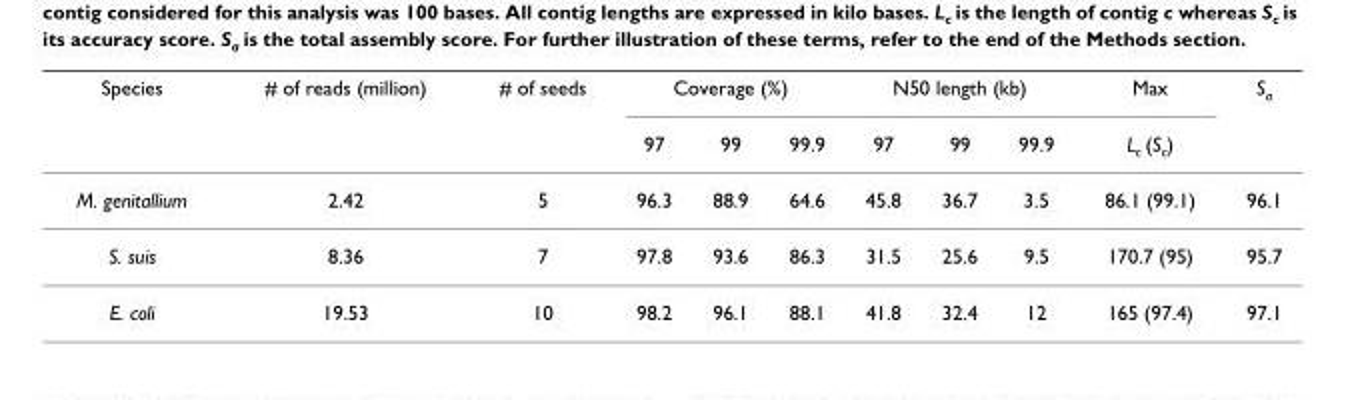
<table><thead><tr><td rowspan="2">Species</td><td rowspan="2"># of reads (million)</td><td rowspan="2"># of seeds</td><td colspan="3">Coverage (%)</td><td colspan="3">N50 length (kb)</td><td rowspan="2">Max L<sub>c</sub> (S<sub>c</sub>)</td><td rowspan="2">S<sub>a</sub></td></tr><tr><td>97</td><td>99</td><td>99.9</td><td>97</td><td>99</td><td>99.9</td></tr></thead><tbody><tr><td>M. genitallium</td><td>2.42</td><td>5</td><td>96.3</td><td>88.9</td><td>64.6</td><td>45.8</td><td>36.7</td><td>3.5</td><td>86.1 (99.1)</td><td>96.1</td></tr><tr><td>S. suis</td><td>8.36</td><td>7</td><td>97.8</td><td>93.6</td><td>86.3</td><td>31.5</td><td>25.6</td><td>9.5</td><td>170.7 (95)</td><td>95.7</td></tr><tr><td>E. coli</td><td>19.53</td><td>10</td><td>98.2</td><td>96.1</td><td>88.1</td><td>41.8</td><td>32.4</td><td>12</td><td>165 (97.4)</td><td>97.1</td></tr></tbody></table>